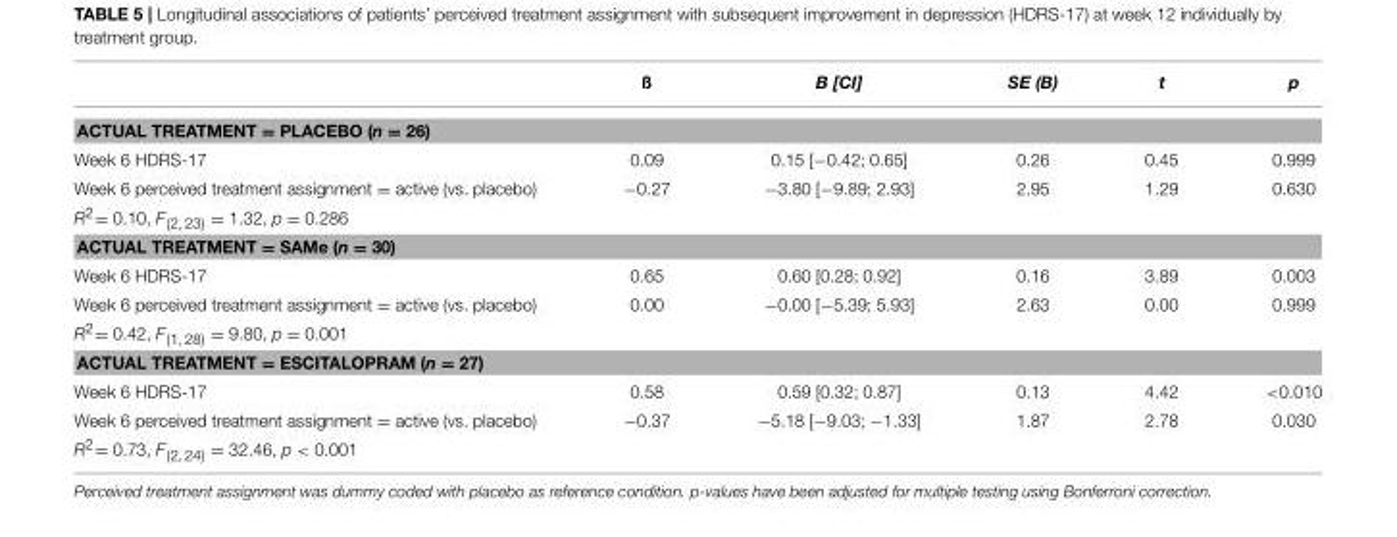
<table><thead><tr><td></td><td>ß</td><td>B [CI]</td><td>SE (B)</td><td>t</td><td>p</td></tr></thead><tbody><tr><td colspan="6">ACTUAL TREATMENT = PLACEBO (n = 26)</td></tr><tr><td>Week 6 HDRS-17</td><td>0.09</td><td>0.15 [−0.42; 0.65]</td><td>0.26</td><td>0.45</td><td>0.999</td></tr><tr><td>Week 6 perceived treatment assignment = active (vs. placebo)</td><td>−0.27</td><td>−3.80 [−9.89; 2.93]</td><td>2.95</td><td>1.29</td><td>0.630</td></tr><tr><td colspan="6">R<sup>2</sup>= 0.10, F<sub>(2, 23)</sub> = 1.32, p = 0.286</td></tr><tr><td colspan="6">ACTUAL TREATMENT = SAMe (n = 30)</td></tr><tr><td>Week 6 HDRS-17</td><td>0.65</td><td>0.60 [0.28; 0.92]</td><td>0.16</td><td>3.89</td><td>0.003</td></tr><tr><td>Week 6 perceived treatment assignment = active (vs. placebo)</td><td>0.00</td><td>−0.00 [−5.39; 5.93]</td><td>2.63</td><td>0.00</td><td>0.999</td></tr><tr><td colspan="6">R<sup>2</sup>= 0.42, F<sub>(1, 28)</sub> = 9.80, p = 0.001</td></tr><tr><td colspan="6">ACTUAL TREATMENT = ESCITALOPRAM (n = 27)</td></tr><tr><td>Week 6 HDRS-17</td><td>0.58</td><td>0.59 [0.32; 0.87]</td><td>0.13</td><td>4.42</td><td>&lt;0.010</td></tr><tr><td>Week 6 perceived treatment assignment = active (vs. placebo)</td><td>−0.37</td><td>−5.18 [−9.03; −1.33]</td><td>1.87</td><td>2.78</td><td>0.030</td></tr><tr><td>R<sup>2</sup>= 0.73, F<sub>(2, 24)</sub> = 32.46, p &lt; 0.001</td><td></td><td></td><td></td><td></td><td></td></tr></tbody></table>